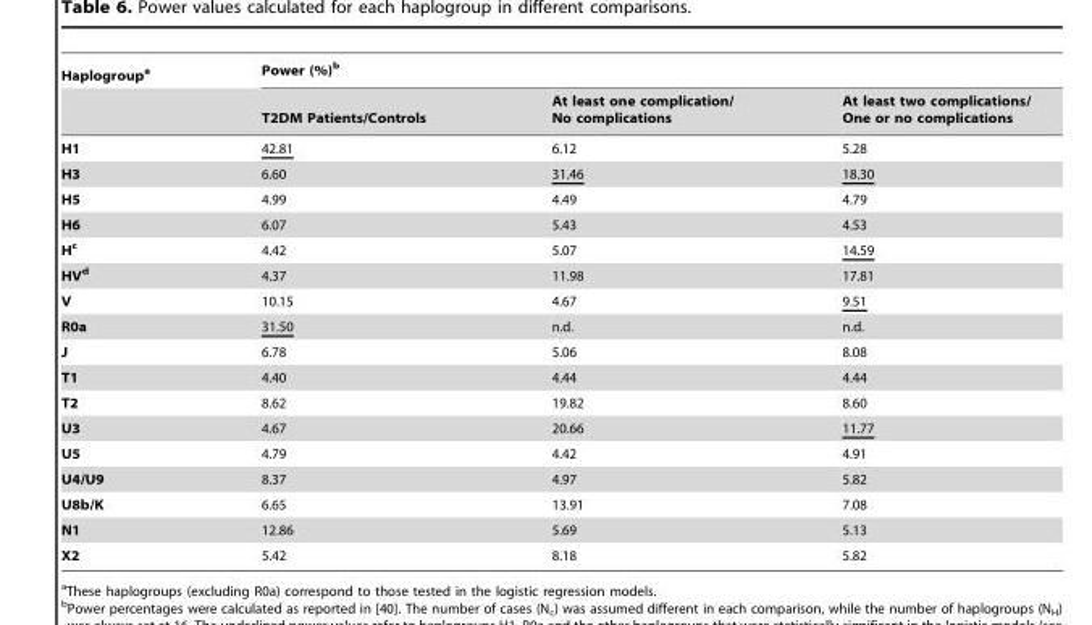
<table><thead><tr><td rowspan="2">Haplogroup<sup>a</sup></td><td colspan="3">Power (%)<sup>b</sup></td></tr><tr><td>T2DM Patients/Controls</td><td>At least one complication/ No complications</td><td>At least two complications/ One or no complications</td></tr></thead><tbody><tr><td>H1</td><td>42.81</td><td>6.12</td><td>5.28</td></tr><tr><td>H3</td><td>6.60</td><td>31.46</td><td>18.30</td></tr><tr><td>H5</td><td>4.99</td><td>4.49</td><td>4.79</td></tr><tr><td>H6</td><td>6.07</td><td>5.43</td><td>4.53</td></tr><tr><td>Hc</td><td>4.42</td><td>5.07</td><td>14.59</td></tr><tr><td>HVd</td><td>4.37</td><td>11.98</td><td>17.81</td></tr><tr><td>V</td><td>10.15</td><td>4.67</td><td>9.51</td></tr><tr><td>R0a</td><td>31.50</td><td>n.d.</td><td>n.d.</td></tr><tr><td>J</td><td>6.78</td><td>5.06</td><td>8.08</td></tr><tr><td>T1</td><td>4.40</td><td>4.44</td><td>4.44</td></tr><tr><td>T2</td><td>8.62</td><td>19.82</td><td>8.60</td></tr><tr><td>U3</td><td>4.67</td><td>20.66</td><td>11.77</td></tr><tr><td>U5</td><td>4.79</td><td>4.42</td><td>4.91</td></tr><tr><td>U4/U9</td><td>8.37</td><td>4.97</td><td>5.82</td></tr><tr><td>U8b/K</td><td>6.65</td><td>13.91</td><td>7.08</td></tr><tr><td>N1</td><td>12.86</td><td>5.69</td><td>5.13</td></tr><tr><td>X2</td><td>5.42</td><td>8.18</td><td>5.82</td></tr></tbody></table>